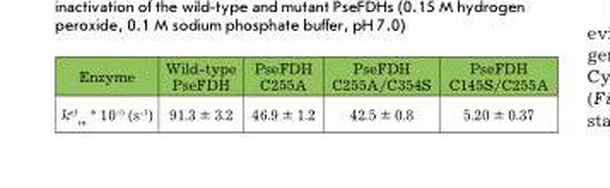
<table><thead><tr><td>Enzyme</td><td>Wild-type PseFDH</td><td>PseFDH C255A</td><td>PseFDH C255A/C354S</td><td>PseFDH C145S/C255A</td></tr></thead><tbody><tr><td>kef in * 10-5 (s-1)</td><td>91.3 ± 3.2</td><td>46.9 ± 1.2</td><td>42.5 ± 0.8</td><td>5.20 ± 0.37</td></tr></tbody></table>